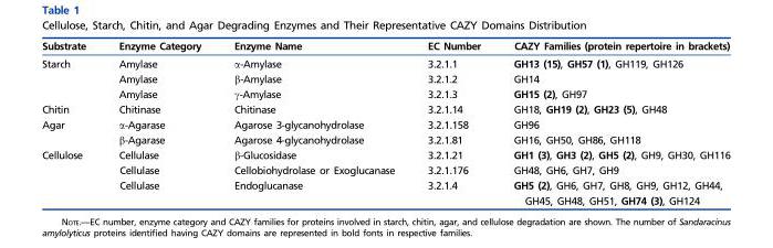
<table><thead><tr><td>Substrate</td><td>Enzyme Category</td><td>Enzyme Name</td><td>EC Number</td><td>CAZY Families (protein repertoire in brackets)</td></tr></thead><tbody><tr><td rowspan="3">Starch</td><td>Amylase</td><td>α-Amylase</td><td>3.2.1.1</td><td>GH13 (15), GH57 (1), GH119, GH126</td></tr><tr><td>Amylase</td><td>β-Amylase</td><td>3.2.1.2</td><td>GH14</td></tr><tr><td>Amylase</td><td>γ-Amylase</td><td>3.2.1.3</td><td>GH15 (2), GH97</td></tr><tr><td>Chitin</td><td>Chitinase</td><td>Chitinase</td><td>3.2.1.14</td><td>GH18, GH19 (2), GH23 (5), GH48</td></tr><tr><td rowspan="2">Agar</td><td>α-Agarase</td><td>Agarose 3-glycanohydrolase</td><td>3.2.1.158</td><td>GH96</td></tr><tr><td>β-Agarase</td><td>Agarose 4-glycanohydrolase</td><td>3.2.1.81</td><td>GH16, GH50, GH86, GH118</td></tr><tr><td rowspan="3">Cellulose</td><td>Cellulase</td><td>β-Glucosidase</td><td>3.2.1.21</td><td>GH1 (3), GH3 (2), GH5 (2), GH9, GH30, GH116</td></tr><tr><td>Cellulase</td><td>Cellobiohydrolase or Exoglucanase</td><td>3.2.1.176</td><td>GH48, GH6, GH7, GH9</td></tr><tr><td>Cellulase</td><td>Endoglucanase</td><td>3.2.1.4</td><td>GH5 (2), GH6, GH7, GH8, GH9, GH12, GH44, GH45, GH48, GH51, GH74 (3), GH124</td></tr></tbody></table>